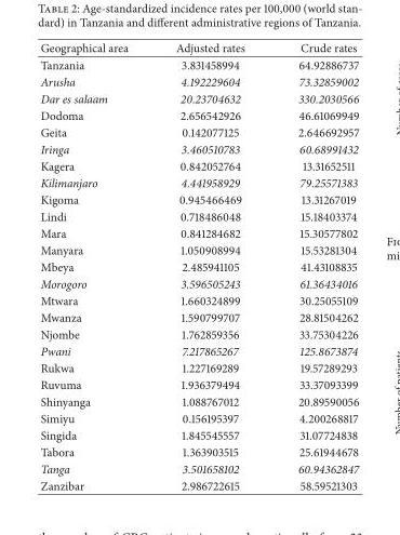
<table><thead><tr><td>Geographical area</td><td>Adjusted rates</td><td>Crude rates</td></tr></thead><tbody><tr><td>Tanzania</td><td>3.831458994</td><td>64.92886737</td></tr><tr><td>Arusha</td><td>4.192229604</td><td>73.32859002</td></tr><tr><td>Dar es salaam</td><td>20.23704632</td><td>330.2030566</td></tr><tr><td>Dodoma</td><td>2.656542926</td><td>46.61069949</td></tr><tr><td>Geita</td><td>0.142077125</td><td>2.646692957</td></tr><tr><td>Iringa</td><td>3.460510783</td><td>60.68991432</td></tr><tr><td>Kagera</td><td>0.842052764</td><td>13.31652511</td></tr><tr><td>Kilimanjaro</td><td>4.441958929</td><td>79.25571383</td></tr><tr><td>Kigoma</td><td>0.945466469</td><td>13.31267019</td></tr><tr><td>Lindi</td><td>0.718486048</td><td>15.18403374</td></tr><tr><td>Mara</td><td>0.841284682</td><td>15.30577802</td></tr><tr><td>Manyara</td><td>1.050908994</td><td>15.53281304</td></tr><tr><td>Mbeya</td><td>2.485941105</td><td>41.43108835</td></tr><tr><td>Morogoro</td><td>3.596505243</td><td>61.36434016</td></tr><tr><td>Mtwara</td><td>1.660324899</td><td>30.25055109</td></tr><tr><td>Mwanza</td><td>1.590799707</td><td>28.81504262</td></tr><tr><td>Njombe</td><td>1.762859356</td><td>33.75304226</td></tr><tr><td>Pwani</td><td>7.217865267</td><td>125.8673874</td></tr><tr><td>Rukwa</td><td>1.227169289</td><td>19.57289293</td></tr><tr><td>Ruvuma</td><td>1.936379494</td><td>33.37093399</td></tr><tr><td>Shinyanga</td><td>1.088767012</td><td>20.89590056</td></tr><tr><td>Simiyu</td><td>0.156195397</td><td>4.200268817</td></tr><tr><td>Singida</td><td>1.845545557</td><td>31.07724838</td></tr><tr><td>Tabora</td><td>1.363903515</td><td>25.61944678</td></tr><tr><td>Tanga</td><td>3.501658102</td><td>60.94362847</td></tr><tr><td>Zanzibar</td><td>2.986722615</td><td>58.59521303</td></tr></tbody></table>